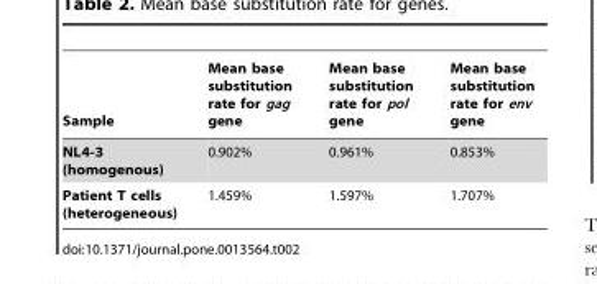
<table><thead><tr><td>Sample</td><td>Mean base substitution rate for gag gene</td><td>Mean base substitution rate for pol gene</td><td>Mean base substitution rate for env gene</td></tr></thead><tbody><tr><td>NL4-3 (homogenous)</td><td>0.902%</td><td>0.961%</td><td>0.853%</td></tr><tr><td>Patient T cells (heterogeneous)</td><td>1.459%</td><td>1.597%</td><td>1.707%</td></tr></tbody></table>